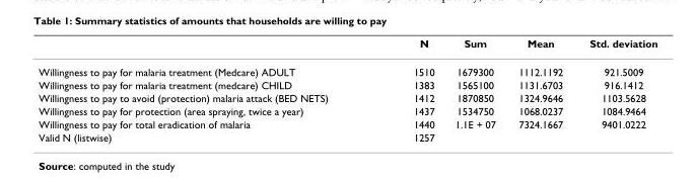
<table><thead><tr><td></td><td>N</td><td>Sum</td><td>Mean</td><td>Std. deviation</td></tr></thead><tbody><tr><td>Willingness to pay for malaria treatment (Medcare) ADULT</td><td>1510</td><td>1679300</td><td>1112.1192</td><td>921.5009</td></tr><tr><td>Willingness to pay for malaria treatment (medcare) CHILD</td><td>1383</td><td>1565100</td><td>1131.6703</td><td>916.1412</td></tr><tr><td>Willingness to pay to avoid (protection) malaria attack (BED NETS)</td><td>1412</td><td>1870850</td><td>1324.9646</td><td>1103.5628</td></tr><tr><td>Willingness to pay for protection (area spraying, twice a year)</td><td>1437</td><td>1534750</td><td>1068.0237</td><td>1084.9464</td></tr><tr><td>Willingness to pay for total eradication of malaria</td><td>1440</td><td>1.1E + 07</td><td>7324.1667</td><td>9401.0222</td></tr><tr><td>Valid N (listwise)</td><td>1257</td><td></td><td></td><td></td></tr></tbody></table>